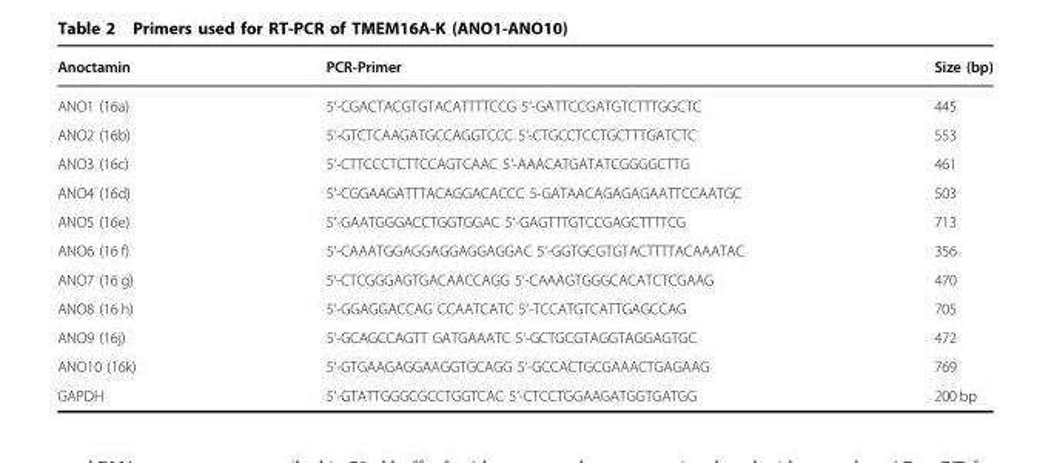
<table><thead><tr><td>Anoctamin</td><td>PCR-Primer</td><td>Size (bp)</td></tr></thead><tbody><tr><td>ANO1 (16a)</td><td>5‘-CGACTACGTGTACATTTTCCG 5‘-GATTCCGATGTCTTTGGCTC</td><td>445</td></tr><tr><td>ANO2 (16b)</td><td>5‘-GTCTCAAGATGCCAGGTCCC 5‘-CTGCCTCCTGCTTTGATCTC</td><td>553</td></tr><tr><td>ANO3 (16c)</td><td>5‘-CTTCCCTCTTCCAGTCAAC 5‘-AAACATGATATCGGGGCTTG</td><td>461</td></tr><tr><td>ANO4 (16d)</td><td>5‘-CGGAAGATTTACAGGACACCC 5-GATAACAGAGAGAATTCCAATGC</td><td>503</td></tr><tr><td>ANO5 (16e)</td><td>5‘-GAATGGGACCTGGTGGAC 5‘-GAGTTTGTCCGAGCTTTTCG</td><td>713</td></tr><tr><td>ANO6 (16 f)</td><td>5‘-CAAATGGAGGAGGAGGAGGAC 5‘-GGTGCGTGTACTTTTACAAATAC</td><td>356</td></tr><tr><td>ANO7 (16 g)</td><td>5‘-CTCGGGAGTGACAACCAGG 5‘-CAAAGTGGGCACATCTCGAAG</td><td>470</td></tr><tr><td>ANO8 (16 h)</td><td>5‘-GGAGGACCAG CCAATCATC 5‘-TCCATGTCATTGAGCCAG</td><td>705</td></tr><tr><td>ANO9 (16j)</td><td>5‘-GCAGCCAGTT GATGAAATC 5‘-GCTGCGTAGGTAGGAGTGC</td><td>472</td></tr><tr><td>ANO10 (16k)</td><td>5‘-GTGAAGAGGAAGGTGCAGG 5‘-GCCACTGCGAAACTGAGAAG</td><td>769</td></tr><tr><td>GAPDH</td><td>5‘-GTATTGGGCGCCTGGTCAC 5‘-CTCCTGGAAGATGGTGATGG</td><td>200 bp</td></tr></tbody></table>